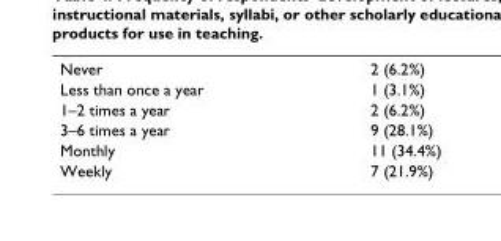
<table><tbody><tr><td>Never</td><td>2 (6.2%)</td></tr><tr><td>Less than once a year</td><td>1 (3.1%)</td></tr><tr><td>1–2 times a year</td><td>2 (6.2%)</td></tr><tr><td>3–6 times a year</td><td>9 (28.1%)</td></tr><tr><td>Monthly</td><td>11 (34.4%)</td></tr><tr><td>Weekly</td><td>7 (21.9%)</td></tr></tbody></table>